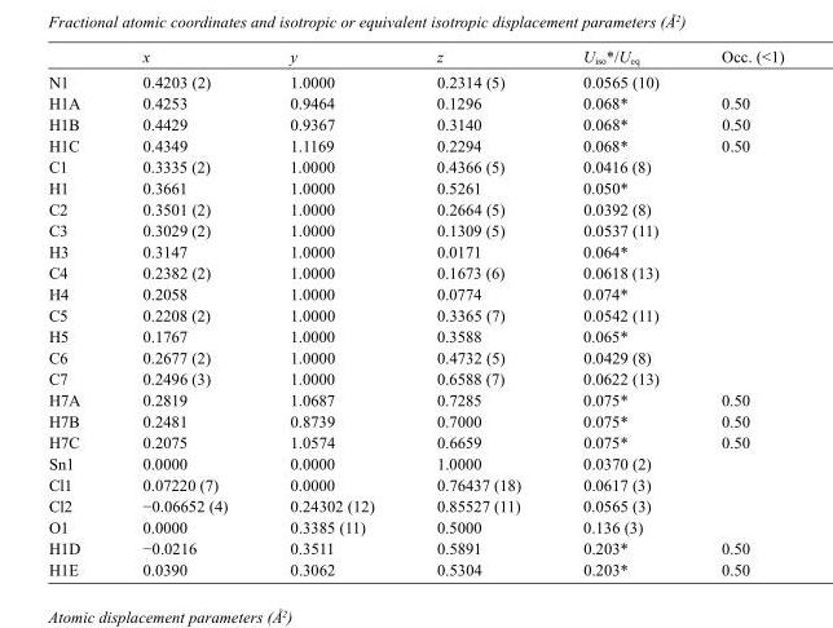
<table><thead><tr><td></td><td>x</td><td>y</td><td>z</td><td>U<sub>iso</sub>*/U<sub>eq</sub></td><td>Occ. (&lt;1)</td></tr></thead><tbody><tr><td>N1</td><td>0.4203 (2)</td><td>1.0000</td><td>0.2314 (5)</td><td>0.0565 (10)</td><td></td></tr><tr><td>H1A</td><td>0.4253</td><td>0.9464</td><td>0.1296</td><td>0.068*</td><td>0.50</td></tr><tr><td>H1B</td><td>0.4429</td><td>0.9367</td><td>0.3140</td><td>0.068*</td><td>0.50</td></tr><tr><td>H1C</td><td>0.4349</td><td>1.1169</td><td>0.2294</td><td>0.068*</td><td>0.50</td></tr><tr><td>C1</td><td>0.3335 (2)</td><td>1.0000</td><td>0.4366 (5)</td><td>0.0416 (8)</td><td></td></tr><tr><td>H1</td><td>0.3661</td><td>1.0000</td><td>0.5261</td><td>0.050*</td><td></td></tr><tr><td>C2</td><td>0.3501 (2)</td><td>1.0000</td><td>0.2664 (5)</td><td>0.0392 (8)</td><td></td></tr><tr><td>C3</td><td>0.3029 (2)</td><td>1.0000</td><td>0.1309 (5)</td><td>0.0537 (11)</td><td></td></tr><tr><td>H3</td><td>0.3147</td><td>1.0000</td><td>0.0171</td><td>0.064*</td><td></td></tr><tr><td>C4</td><td>0.2382 (2)</td><td>1.0000</td><td>0.1673 (6)</td><td>0.0618 (13)</td><td></td></tr><tr><td>H4</td><td>0.2058</td><td>1.0000</td><td>0.0774</td><td>0.074*</td><td></td></tr><tr><td>C5</td><td>0.2208 (2)</td><td>1.0000</td><td>0.3365 (7)</td><td>0.0542 (11)</td><td></td></tr><tr><td>H5</td><td>0.1767</td><td>1.0000</td><td>0.3588</td><td>0.065*</td><td></td></tr><tr><td>C6</td><td>0.2677 (2)</td><td>1.0000</td><td>0.4732 (5)</td><td>0.0429 (8)</td><td></td></tr><tr><td>C7</td><td>0.2496 (3)</td><td>1.0000</td><td>0.6588 (7)</td><td>0.0622 (13)</td><td></td></tr><tr><td>H7A</td><td>0.2819</td><td>1.0687</td><td>0.7285</td><td>0.075*</td><td>0.50</td></tr><tr><td>H7B</td><td>0.2481</td><td>0.8739</td><td>0.7000</td><td>0.075*</td><td>0.50</td></tr><tr><td>H7C</td><td>0.2075</td><td>1.0574</td><td>0.6659</td><td>0.075*</td><td>0.50</td></tr><tr><td>Sn1</td><td>0.0000</td><td>0.0000</td><td>1.0000</td><td>0.0370 (2)</td><td></td></tr><tr><td>Cl1</td><td>0.07220 (7)</td><td>0.0000</td><td>0.76437 (18)</td><td>0.0617 (3)</td><td></td></tr><tr><td>Cl2</td><td>−0.06652 (4)</td><td>0.24302 (12)</td><td>0.85527 (11)</td><td>0.0565 (3)</td><td></td></tr><tr><td>O1</td><td>0.0000</td><td>0.3385 (11)</td><td>0.5000</td><td>0.136 (3)</td><td></td></tr><tr><td>H1D</td><td>−0.0216</td><td>0.3511</td><td>0.5891</td><td>0.203*</td><td>0.50</td></tr><tr><td>H1E</td><td>0.0390</td><td>0.3062</td><td>0.5304</td><td>0.203*</td><td>0.50</td></tr></tbody></table>